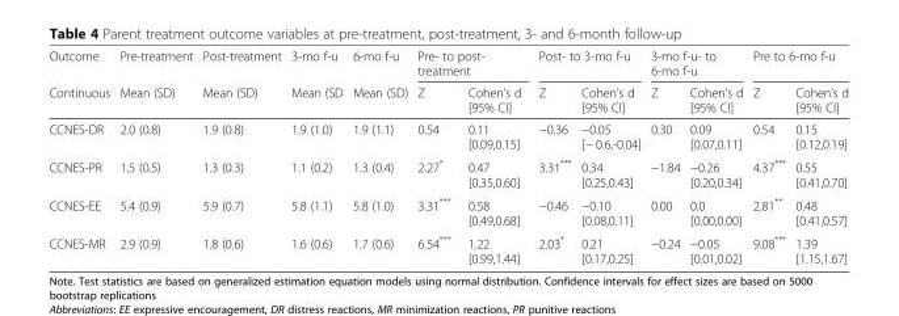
<table><thead><tr><td rowspan="2">Outcome Continuous</td><td rowspan="2">Pre-treatment Mean (SD)</td><td rowspan="2">Post-treatment Mean (SD)</td><td rowspan="2">3-mo f-u Mean (SD</td><td rowspan="2">6-mo f-u Mean (SD)</td><td colspan="2">Pre- to post- treatment</td><td colspan="2">Post- to 3-mo f-u</td><td colspan="2">3-mo f-u- to 6-mo f-u</td><td colspan="2">Pre to 6-mo f-u</td></tr><tr><td>Z</td><td>Cohen’s d [95% CI]</td><td>Z</td><td>Cohen’s d [95% CI]</td><td>Z</td><td>Cohen’s d [95% CI]</td><td>Z</td><td>Cohen’s d [95% CI]</td></tr></thead><tbody><tr><td>CCNES-DR</td><td>2.0 (0.8)</td><td>1.9 (0.8)</td><td>1.9 (1.0)</td><td>1.9 (1.1)</td><td>0.54</td><td>0.11 [0.09,0.15]</td><td>−0.36</td><td>−0.05 [− 0.6,-0.04]</td><td>0.30</td><td>0.09 [0.07,0.11]</td><td>0.54</td><td>0.15 [0.12,0.19]</td></tr><tr><td>CCNES-PR</td><td>1.5 (0.5)</td><td>1.3 (0.3)</td><td>1.1 (0.2)</td><td>1.3 (0.4)</td><td>2.27*</td><td>0.47 [0.35,0.60]</td><td>3.31***</td><td>0.34 [0.25,0.43]</td><td>−1.84</td><td>−0.26 [0.20,0.34]</td><td>4.37***</td><td>0.55 [0.41,0.70]</td></tr><tr><td>CCNES-EE</td><td>5.4 (0.9)</td><td>5.9 (0.7)</td><td>5.8 (1.1)</td><td>5.8 (1.0)</td><td>3.31***</td><td>0.58 [0.49,0.68]</td><td>−0.46</td><td>−0.10 [0.08,0.11]</td><td>0.00</td><td>0.0 [0.00,0.00]</td><td>2.81**</td><td>0.48 [0.41,0.57]</td></tr><tr><td>CCNES-MR</td><td>2.9 (0.9)</td><td>1.8 (0.6)</td><td>1.6 (0.6)</td><td>1.7 (0.6)</td><td>6.54***</td><td>1.22 [0.99,1.44]</td><td>2.03*</td><td>0.21 [0.17,0.25]</td><td>−0.24</td><td>−0.05 [0.01,0.02]</td><td>9.08***</td><td>1.39 [1.15,1.67]</td></tr></tbody></table>